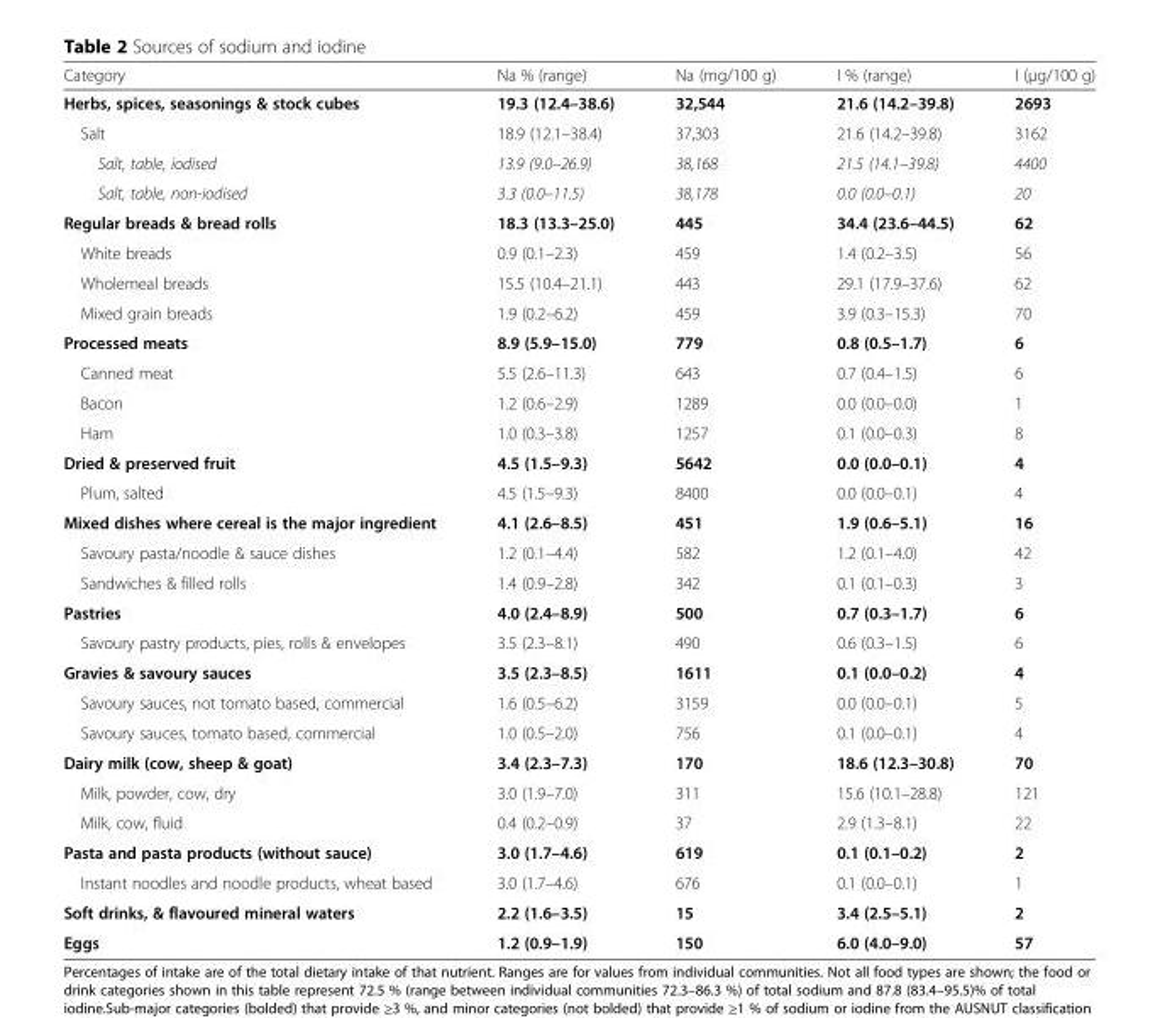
<table><thead><tr><td>Category</td><td>Na % (range)</td><td>Na (mg/100 g)</td><td>I % (range)</td><td>I (μg/100 g)</td></tr></thead><tbody><tr><td>Herbs, spices, seasonings &amp; stock cubes</td><td>19.3 (12.4–38.6)</td><td>32,544</td><td>21.6 (14.2–39.8)</td><td>2693</td></tr><tr><td>Salt</td><td>18.9 (12.1–38.4)</td><td>37,303</td><td>21.6 (14.2–39.8)</td><td>3162</td></tr><tr><td>Salt, table, iodised</td><td>13.9 (9.0–26.9)</td><td>38,168</td><td>21.5 (14.1–39.8)</td><td>4400</td></tr><tr><td>Salt, table, non-iodised</td><td>3.3 (0.0–11.5)</td><td>38,178</td><td>0.0 (0.0–0.1)</td><td>20</td></tr><tr><td>Regular breads &amp; bread rolls</td><td>18.3 (13.3–25.0)</td><td>445</td><td>34.4 (23.6–44.5)</td><td>62</td></tr><tr><td>White breads</td><td>0.9 (0.1–2.3)</td><td>459</td><td>1.4 (0.2–3.5)</td><td>56</td></tr><tr><td>Wholemeal breads</td><td>15.5 (10.4–21.1)</td><td>443</td><td>29.1 (17.9–37.6)</td><td>62</td></tr><tr><td>Mixed grain breads</td><td>1.9 (0.2–6.2)</td><td>459</td><td>3.9 (0.3–15.3)</td><td>70</td></tr><tr><td>Processed meats</td><td>8.9 (5.9–15.0)</td><td>779</td><td>0.8 (0.5–1.7)</td><td>6</td></tr><tr><td>Canned meat</td><td>5.5 (2.6–11.3)</td><td>643</td><td>0.7 (0.4–1.5)</td><td>6</td></tr><tr><td>Bacon</td><td>1.2 (0.6–2.9)</td><td>1289</td><td>0.0 (0.0–0.0)</td><td>1</td></tr><tr><td>Ham</td><td>1.0 (0.3–3.8)</td><td>1257</td><td>0.1 (0.0–0.3)</td><td>8</td></tr><tr><td>Dried &amp; preserved fruit</td><td>4.5 (1.5–9.3)</td><td>5642</td><td>0.0 (0.0–0.1)</td><td>4</td></tr><tr><td>Plum, salted</td><td>4.5 (1.5–9.3)</td><td>8400</td><td>0.0 (0.0–0.1)</td><td>4</td></tr><tr><td>Mixed dishes where cereal is the major ingredient</td><td>4.1 (2.6–8.5)</td><td>451</td><td>1.9 (0.6–5.1)</td><td>16</td></tr><tr><td>Savoury pasta/noodle &amp; sauce dishes</td><td>1.2 (0.1–4.4)</td><td>582</td><td>1.2 (0.1–4.0)</td><td>42</td></tr><tr><td>Sandwiches &amp; filled rolls</td><td>1.4 (0.9–2.8)</td><td>342</td><td>0.1 (0.1–0.3)</td><td>3</td></tr><tr><td>Pastries</td><td>4.0 (2.4–8.9)</td><td>500</td><td>0.7 (0.3–1.7)</td><td>6</td></tr><tr><td>Savoury pastry products, pies, rolls &amp; envelopes</td><td>3.5 (2.3–8.1)</td><td>490</td><td>0.6 (0.3–1.5)</td><td>6</td></tr><tr><td>Gravies &amp; savoury sauces</td><td>3.5 (2.3–8.5)</td><td>1611</td><td>0.1 (0.0–0.2)</td><td>4</td></tr><tr><td>Savoury sauces, not tomato based, commercial</td><td>1.6 (0.5–6.2)</td><td>3159</td><td>0.0 (0.0–0.1)</td><td>5</td></tr><tr><td>Savoury sauces, tomato based, commercial</td><td>1.0 (0.5–2.0)</td><td>756</td><td>0.1 (0.0–0.1)</td><td>4</td></tr><tr><td>Dairy milk (cow, sheep &amp; goat)</td><td>3.4 (2.3–7.3)</td><td>170</td><td>18.6 (12.3–30.8)</td><td>70</td></tr><tr><td>Milk, powder, cow, dry</td><td>3.0 (1.9–7.0)</td><td>311</td><td>15.6 (10.1–28.8)</td><td>121</td></tr><tr><td>Milk, cow, fluid</td><td>0.4 (0.2–0.9)</td><td>37</td><td>2.9 (1.3–8.1)</td><td>22</td></tr><tr><td>Pasta and pasta products (without sauce)</td><td>3.0 (1.7–4.6)</td><td>619</td><td>0.1 (0.1–0.2)</td><td>2</td></tr><tr><td>Instant noodles and noodle products, wheat based</td><td>3.0 (1.7–4.6)</td><td>676</td><td>0.1 (0.0–0.1)</td><td>1</td></tr><tr><td>Soft drinks, &amp; flavoured mineral waters</td><td>2.2 (1.6–3.5)</td><td>15</td><td>3.4 (2.5–5.1)</td><td>2</td></tr><tr><td>Eggs</td><td>1.2 (0.9–1.9)</td><td>150</td><td>6.0 (4.0–9.0)</td><td>57</td></tr></tbody></table>